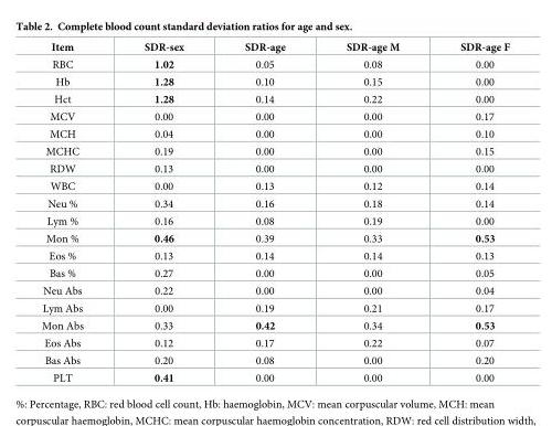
<table><thead><tr><td>Item</td><td>SDR-sex</td><td>SDR-age</td><td>SDR-age M</td><td>SDR-age F</td></tr></thead><tbody><tr><td>RBC</td><td>1.02</td><td>0.05</td><td>0.08</td><td>0.00</td></tr><tr><td>Hb</td><td>1.28</td><td>0.10</td><td>0.15</td><td>0.00</td></tr><tr><td>Hct</td><td>1.28</td><td>0.14</td><td>0.22</td><td>0.00</td></tr><tr><td>MCV</td><td>0.00</td><td>0.00</td><td>0.00</td><td>0.17</td></tr><tr><td>MCH</td><td>0.04</td><td>0.00</td><td>0.00</td><td>0.10</td></tr><tr><td>MCHC</td><td>0.19</td><td>0.00</td><td>0.00</td><td>0.15</td></tr><tr><td>RDW</td><td>0.13</td><td>0.00</td><td>0.00</td><td>0.00</td></tr><tr><td>WBC</td><td>0.00</td><td>0.13</td><td>0.12</td><td>0.14</td></tr><tr><td>Neu %</td><td>0.34</td><td>0.16</td><td>0.18</td><td>0.14</td></tr><tr><td>Lym %</td><td>0.16</td><td>0.08</td><td>0.19</td><td>0.00</td></tr><tr><td>Mon %</td><td>0.46</td><td>0.39</td><td>0.33</td><td>0.53</td></tr><tr><td>Eos %</td><td>0.13</td><td>0.14</td><td>0.14</td><td>0.13</td></tr><tr><td>Bas %</td><td>0.27</td><td>0.00</td><td>0.00</td><td>0.05</td></tr><tr><td>Neu Abs</td><td>0.22</td><td>0.00</td><td>0.00</td><td>0.04</td></tr><tr><td>Lym Abs</td><td>0.00</td><td>0.19</td><td>0.21</td><td>0.17</td></tr><tr><td>Mon Abs</td><td>0.33</td><td>0.42</td><td>0.34</td><td>0.53</td></tr><tr><td>Eos Abs</td><td>0.12</td><td>0.17</td><td>0.22</td><td>0.07</td></tr><tr><td>Bas Abs</td><td>0.20</td><td>0.08</td><td>0.00</td><td>0.20</td></tr><tr><td>PLT</td><td>0.41</td><td>0.00</td><td>0.00</td><td>0.00</td></tr></tbody></table>